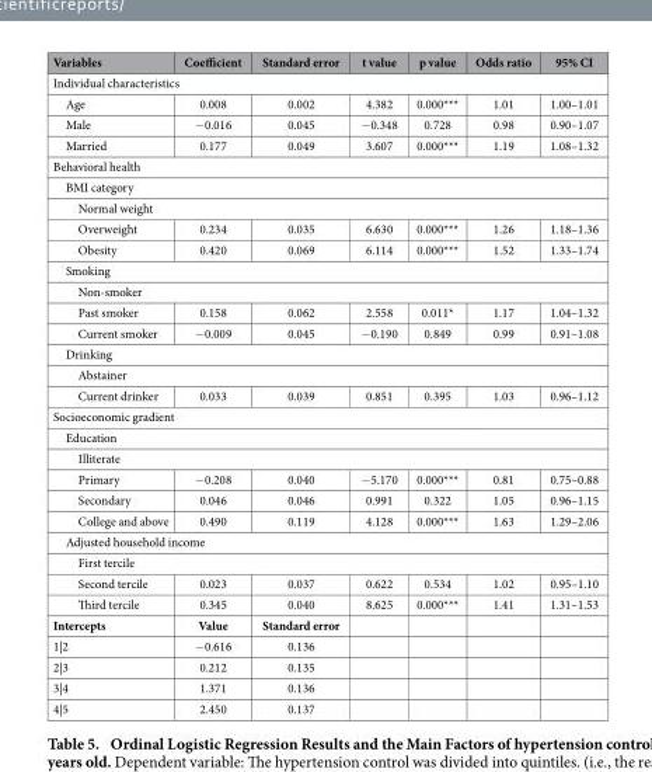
<table><thead><tr><td>Variables</td><td>Coefficient</td><td>Standard error</td><td>t value</td><td>p value</td><td>Odds ratio</td><td>95% CI</td></tr></thead><tbody><tr><td colspan="7">Individual characteristics</td></tr><tr><td>Age</td><td>0.008</td><td>0.002</td><td>4.382</td><td>0.000***</td><td>1.01</td><td>1.00–1.01</td></tr><tr><td>Male</td><td>− 0.016</td><td>0.045</td><td>− 0.348</td><td>0.728</td><td>0.98</td><td>0.90–1.07</td></tr><tr><td>Married</td><td>0.177</td><td>0.049</td><td>3.607</td><td>0.000***</td><td>1.19</td><td>1.08–1.32</td></tr><tr><td colspan="7">Behavioral health</td></tr><tr><td colspan="7">BMI category</td></tr><tr><td colspan="7">Normal weight</td></tr><tr><td>Overweight</td><td>0.234</td><td>0.035</td><td>6.630</td><td>0.000***</td><td>1.26</td><td>1.18–1.36</td></tr><tr><td>Obesity</td><td>0.420</td><td>0.069</td><td>6.114</td><td>0.000***</td><td>1.52</td><td>1.33–1.74</td></tr><tr><td colspan="7">Smoking</td></tr><tr><td colspan="7">Non-smoker</td></tr><tr><td>Past smoker</td><td>0.158</td><td>0.062</td><td>2.558</td><td>0.011*</td><td>1.17</td><td>1.04–1.32</td></tr><tr><td>Current smoker</td><td>− 0.009</td><td>0.045</td><td>− 0.190</td><td>0.849</td><td>0.99</td><td>0.91–1.08</td></tr><tr><td colspan="7">Drinking</td></tr><tr><td colspan="7">Abstainer</td></tr><tr><td>Current drinker</td><td>0.033</td><td>0.039</td><td>0.851</td><td>0.395</td><td>1.03</td><td>0.96–1.12</td></tr><tr><td colspan="7">Socioeconomic gradient</td></tr><tr><td colspan="7">Education</td></tr><tr><td colspan="7">Illiterate</td></tr><tr><td>Primary</td><td>− 0.208</td><td>0.040</td><td>− 5.170</td><td>0.000***</td><td>0.81</td><td>0.75–0.88</td></tr><tr><td>Secondary</td><td>0.046</td><td>0.046</td><td>0.991</td><td>0.322</td><td>1.05</td><td>0.96–1.15</td></tr><tr><td>College and above</td><td>0.490</td><td>0.119</td><td>4.128</td><td>0.000***</td><td>1.63</td><td>1.29–2.06</td></tr><tr><td colspan="7">Adjusted household income</td></tr><tr><td colspan="7">First tercile</td></tr><tr><td>Second tercile</td><td>0.023</td><td>0.037</td><td>0.622</td><td>0.534</td><td>1.02</td><td>0.95–1.10</td></tr><tr><td>Third tercile</td><td>0.345</td><td>0.040</td><td>8.625</td><td>0.000***</td><td>1.41</td><td>1.31–1.53</td></tr><tr><td>Intercepts</td><td>Value</td><td>Standard error</td><td></td><td></td><td></td><td></td></tr><tr><td>1|2</td><td>− 0.616</td><td>0.136</td><td></td><td></td><td></td><td></td></tr><tr><td>2|3</td><td>0.212</td><td>0.135</td><td></td><td></td><td></td><td></td></tr><tr><td>3|4</td><td>1.371</td><td>0.136</td><td></td><td></td><td></td><td></td></tr><tr><td>4|5</td><td>2.450</td><td>0.137</td><td></td><td></td><td></td><td></td></tr></tbody></table>